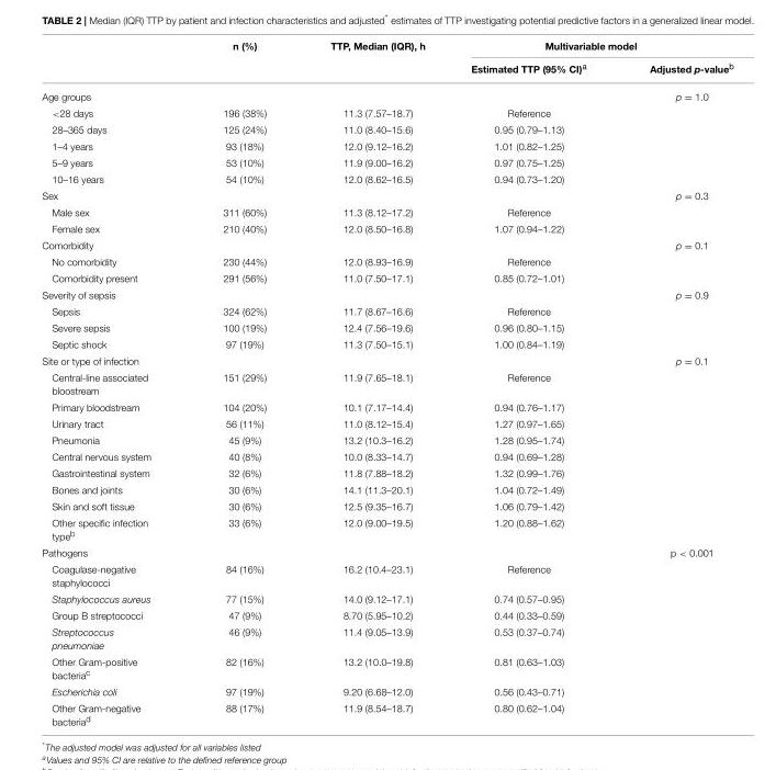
<table><thead><tr><td rowspan="2"></td><td rowspan="2">n (%)</td><td rowspan="2">TTP, Median (IQR), h</td><td colspan="2">Multivariable model</td></tr><tr><td>Estimated TTP (95% CI)<sup>a</sup></td><td>Adjusted p-value<sup>b</sup></td></tr></thead><tbody><tr><td>Age groups</td><td></td><td></td><td></td><td>p = 1.0</td></tr><tr><td>&lt;28 days</td><td>196 (38%)</td><td>11.3 (7.57–18.7)</td><td>Reference</td><td></td></tr><tr><td>28–365 days</td><td>125 (24%)</td><td>11.0 (8.40–15.6)</td><td>0.95 (0.79–1.13)</td><td></td></tr><tr><td>1–4 years</td><td>93 (18%)</td><td>12.0 (9.12–16.2)</td><td>1.01 (0.82–1.25)</td><td></td></tr><tr><td>5–9 years</td><td>53 (10%)</td><td>11.9 (9.00–16.2)</td><td>0.97 (0.75–1.25)</td><td></td></tr><tr><td>10–16 years</td><td>54 (10%)</td><td>12.0 (8.62–16.5)</td><td>0.94 (0.73–1.20)</td><td></td></tr><tr><td>Sex</td><td></td><td></td><td></td><td>p = 0.3</td></tr><tr><td>Male sex</td><td>311 (60%)</td><td>11.3 (8.12–17.2)</td><td>Reference</td><td></td></tr><tr><td>Female sex</td><td>210 (40%)</td><td>12.0 (8.50–16.8)</td><td>1.07 (0.94–1.22)</td><td></td></tr><tr><td>Comorbidity</td><td></td><td></td><td></td><td>p = 0.1</td></tr><tr><td>No comorbidity</td><td>230 (44%)</td><td>12.0 (8.93–16.9)</td><td>Reference</td><td></td></tr><tr><td>Comorbidity present</td><td>291 (56%)</td><td>11.0 (7.50–17.1)</td><td>0.85 (0.72–1.01)</td><td></td></tr><tr><td>Severity of sepsis</td><td></td><td></td><td></td><td>p = 0.9</td></tr><tr><td>Sepsis</td><td>324 (62%)</td><td>11.7 (8.67–16.6)</td><td>Reference</td><td></td></tr><tr><td>Severe sepsis</td><td>100 (19%)</td><td>12.4 (7.56–19.6)</td><td>0.96 (0.80–1.15)</td><td></td></tr><tr><td>Septic shock</td><td>97 (19%)</td><td>11.3 (7.50–15.1)</td><td>1.00 (0.84–1.19)</td><td></td></tr><tr><td>Site or type of infection</td><td></td><td></td><td></td><td>p = 0.1</td></tr><tr><td>Central-line associated bloostream</td><td>151 (29%)</td><td>11.9 (7.65–18.1)</td><td>Reference</td><td></td></tr><tr><td>Primary bloodstream</td><td>104 (20%)</td><td>10.1 (7.17–14.4)</td><td>0.94 (0.76–1.17)</td><td></td></tr><tr><td>Urinary tract</td><td>56 (11%)</td><td>11.0 (8.12–15.4)</td><td>1.27 (0.97–1.65)</td><td></td></tr><tr><td>Pneumonia</td><td>45 (9%)</td><td>13.2 (10.3–16.2)</td><td>1.28 (0.95–1.74)</td><td></td></tr><tr><td>Central nervous system</td><td>40 (8%)</td><td>10.0 (8.33–14.7)</td><td>0.94 (0.69–1.28)</td><td></td></tr><tr><td>Gastrointestinal system</td><td>32 (6%)</td><td>11.8 (7.88–18.2)</td><td>1.32 (0.99–1.76)</td><td></td></tr><tr><td>Bones and joints</td><td>30 (6%)</td><td>14.1 (11.3–20.1)</td><td>1.04 (0.72–1.49)</td><td></td></tr><tr><td>Skin and soft tissue</td><td>30 (6%)</td><td>12.5 (9.35–16.7)</td><td>1.06 (0.79–1.42)</td><td></td></tr><tr><td>Other specific infection type<sup>b</sup></td><td>33 (6%)</td><td>12.0 (9.00–19.5)</td><td>1.20 (0.88–1.62)</td><td></td></tr><tr><td>Pathogens</td><td></td><td></td><td></td><td>p &lt; 0.001</td></tr><tr><td>Coagulase-negative staphylococci</td><td>84 (16%)</td><td>16.2 (10.4–23.1)</td><td>Reference</td><td></td></tr><tr><td>Staphylococcus aureus</td><td>77 (15%)</td><td>14.0 (9.12–17.1)</td><td>0.74 (0.57–0.95)</td><td></td></tr><tr><td>Group B streptococci</td><td>47 (9%)</td><td>8.70 (5.95–10.2)</td><td>0.44 (0.33–0.59)</td><td></td></tr><tr><td>Streptococcus pneumoniae</td><td>46 (9%)</td><td>11.4 (9.05–13.9)</td><td>0.53 (0.37–0.74)</td><td></td></tr><tr><td>Other Gram-positive bacteria<sup>c</sup></td><td>82 (16%)</td><td>13.2 (10.0–19.8)</td><td>0.81 (0.63–1.03)</td><td></td></tr><tr><td>Escherichia coli</td><td>97 (19%)</td><td>9.20 (6.68–12.0)</td><td>0.56 (0.43–0.71)</td><td></td></tr><tr><td>Other Gram-negative bacteria<sup>d</sup></td><td>88 (17%)</td><td>11.9 (8.54–18.7)</td><td>0.80 (0.62–1.04)</td><td></td></tr></tbody></table>